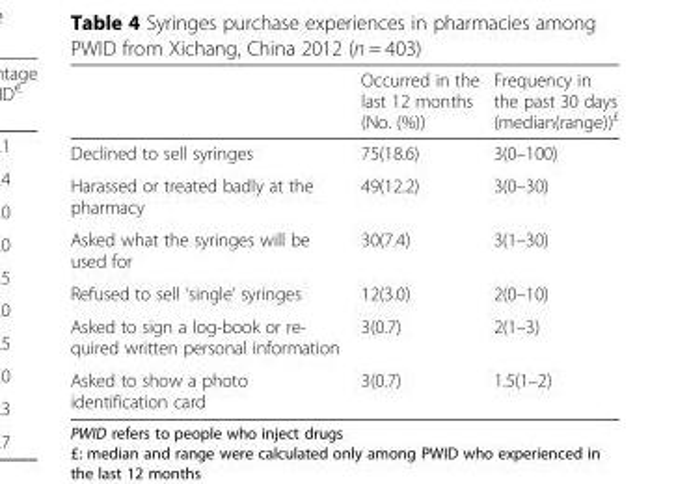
<table><thead><tr><td></td><td>Occurred in the last 12 months (No. (%))</td><td>Frequency in the past 30 days (median(range))<sup>£</sup></td></tr></thead><tbody><tr><td>Declined to sell syringes</td><td>75(18.6)</td><td>3(0–100)</td></tr><tr><td>Harassed or treated badly at the pharmacy</td><td>49(12.2)</td><td>3(0–30)</td></tr><tr><td>Asked what the syringes will be used for</td><td>30(7.4)</td><td>3(1–30)</td></tr><tr><td>Refused to sell ‘single’ syringes</td><td>12(3.0)</td><td>2(0–10)</td></tr><tr><td>Asked to sign a log-book or re- quired written personal information</td><td>3(0.7)</td><td>2(1–3)</td></tr><tr><td>Asked to show a photo identification card</td><td>3(0.7)</td><td>1.5(1–2)</td></tr></tbody></table>